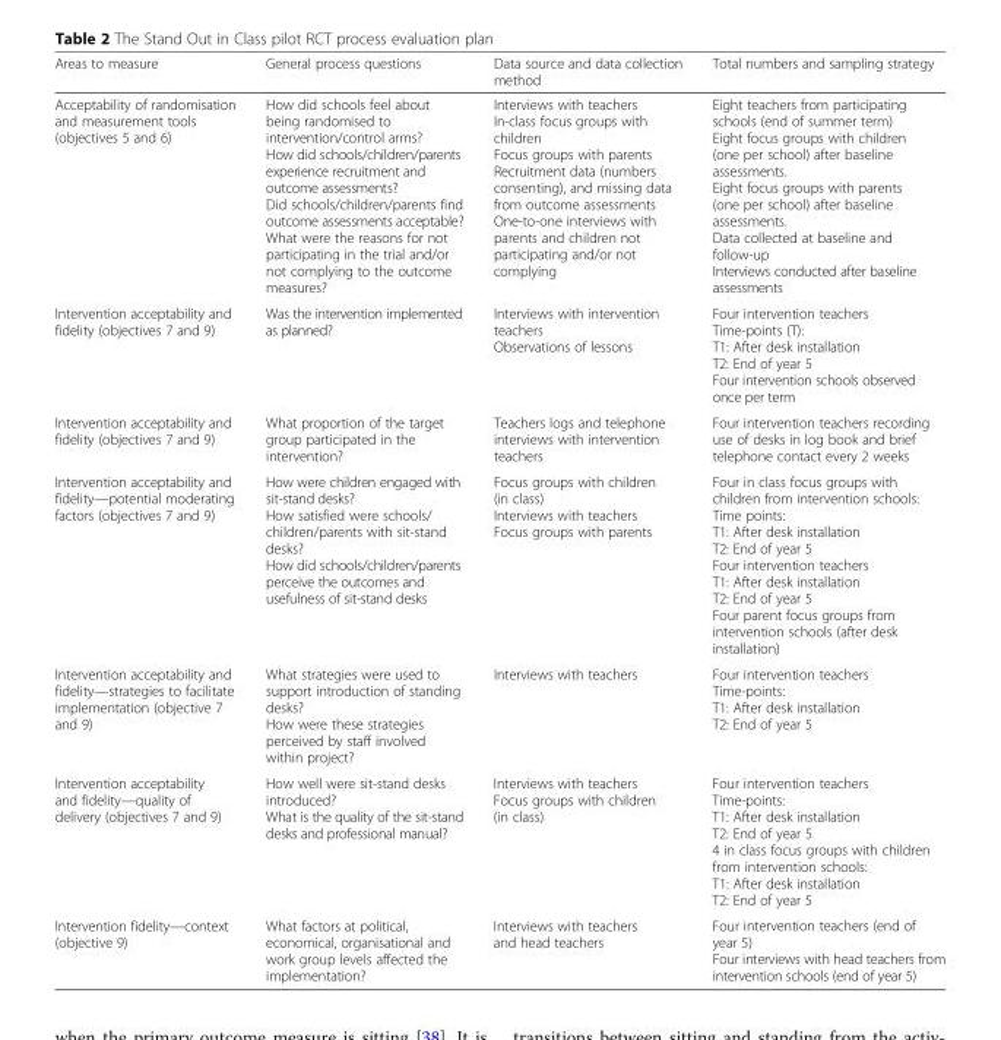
<table><thead><tr><td>Areas to measure</td><td>General process questions</td><td>Data source and data collection method</td><td>Total numbers and sampling strategy</td></tr></thead><tbody><tr><td>Acceptability of randomisation and measurement tools (objectives 5 and 6)</td><td>How did schools feel about being randomised to intervention/control arms? How did schools/children/parents experience recruitment and outcome assessments? Did schools/children/parents find outcome assessments acceptable? What were the reasons for not participating in the trial and/or not complying to the outcome measures?</td><td>Interviews with teachers In-class focus groups with children Focus groups with parents Recruitment data (numbers consenting), and missing data from outcome assessments One-to-one interviews with parents and children not participating and/or not complying</td><td>Eight teachers from participating schools (end of summer term) Eight focus groups with children (one per school) after baseline assessments. Eight focus groups with parents (one per school) after baseline assessments. Data collected at baseline and follow-up Interviews conducted after baseline assessments</td></tr><tr><td>Intervention acceptability and fidelity (objectives 7 and 9)</td><td>Was the intervention implemented as planned?</td><td>Interviews with intervention teachers Observations of lessons</td><td>Four intervention teachers Time-points (T): T1: After desk installation T2: End of year 5 Four intervention schools observed once per term</td></tr><tr><td>Intervention acceptability and fidelity (objectives 7 and 9)</td><td>What proportion of the target group participated in the intervention?</td><td>Teachers logs and telephone interviews with intervention teachers</td><td>Four intervention teachers recording use of desks in log book and brief telephone contact every 2 weeks</td></tr><tr><td>Intervention acceptability and fidelity—potential moderating factors (objectives 7 and 9)</td><td>How were children engaged with sit-stand desks? How satisfied were schools/ children/parents with sit-stand desks? How did schools/children/parents perceive the outcomes and usefulness of sit-stand desks</td><td>Focus groups with children (in class) Interviews with teachers Focus groups with parents</td><td>Four in class focus groups with children from intervention schools: Time points: T1: After desk installation T2: End of year 5 Four intervention teachers T1: After desk installation T2: End of year 5 Four parent focus groups from intervention schools (after desk installation)</td></tr><tr><td>Intervention acceptability and fidelity—strategies to facilitate implementation (objective 7 and 9)</td><td>What strategies were used to support introduction of standing desks? How were these strategies perceived by staff involved within project?</td><td>Interviews with teachers</td><td>Four intervention teachers Time-points: T1: After desk installation T2: End of year 5</td></tr><tr><td>Intervention acceptability and fidelity—quality of delivery (objectives 7 and 9)</td><td>How well were sit-stand desks introduced? What is the quality of the sit-stand desks and professional manual?</td><td>Interviews with teachers Focus groups with children (in class)</td><td>Four intervention teachers Time-points: T1: After desk installation T2: End of year 5 4 in class focus groups with children from intervention schools: T1: After desk installation T2: End of year 5</td></tr><tr><td>Intervention fidelity—context (objective 9)</td><td>What factors at political, economical, organisational and work group levels affected the implementation?</td><td>Interviews with teachers and head teachers</td><td>Four intervention teachers (end of year 5) Four interviews with head teachers from intervention schools (end of year 5)</td></tr></tbody></table>